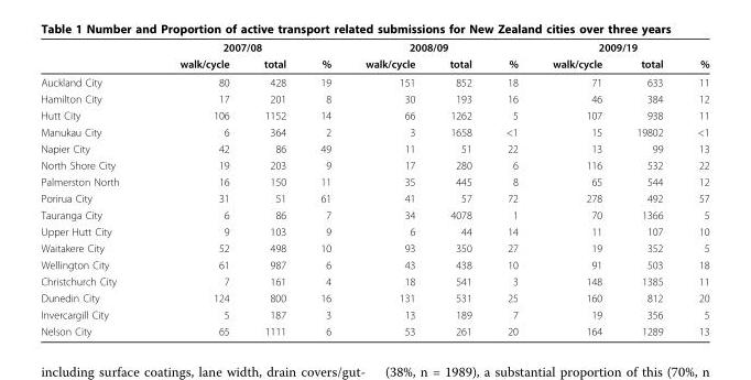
<table><thead><tr><td rowspan="2"></td><td colspan="3">2007/08</td><td colspan="3">2008/09</td><td colspan="3">2009/19</td></tr><tr><td>walk/cycle</td><td>total</td><td>%</td><td>walk/cycle</td><td>total</td><td>%</td><td>walk/cycle</td><td>total</td><td>%</td></tr></thead><tbody><tr><td>Auckland City</td><td>80</td><td>428</td><td>19</td><td>151</td><td>852</td><td>18</td><td>71</td><td>633</td><td>11</td></tr><tr><td>Hamilton City</td><td>17</td><td>201</td><td>8</td><td>30</td><td>193</td><td>16</td><td>46</td><td>384</td><td>12</td></tr><tr><td>Hutt City</td><td>106</td><td>1152</td><td>14</td><td>66</td><td>1262</td><td>5</td><td>107</td><td>938</td><td>11</td></tr><tr><td>Manukau City</td><td>6</td><td>364</td><td>2</td><td>3</td><td>1658</td><td>&lt;1</td><td>15</td><td>19802</td><td>&lt;1</td></tr><tr><td>Napier City</td><td>42</td><td>86</td><td>49</td><td>11</td><td>51</td><td>22</td><td>13</td><td>99</td><td>13</td></tr><tr><td>North Shore City</td><td>19</td><td>203</td><td>9</td><td>17</td><td>280</td><td>6</td><td>116</td><td>532</td><td>22</td></tr><tr><td>Palmerston North</td><td>16</td><td>150</td><td>11</td><td>35</td><td>445</td><td>8</td><td>65</td><td>544</td><td>12</td></tr><tr><td>Porirua City</td><td>31</td><td>51</td><td>61</td><td>41</td><td>57</td><td>72</td><td>278</td><td>492</td><td>57</td></tr><tr><td>Tauranga City</td><td>6</td><td>86</td><td>7</td><td>34</td><td>4078</td><td>1</td><td>70</td><td>1366</td><td>5</td></tr><tr><td>Upper Hutt City</td><td>9</td><td>103</td><td>9</td><td>6</td><td>44</td><td>14</td><td>11</td><td>107</td><td>10</td></tr><tr><td>Waitakere City</td><td>52</td><td>498</td><td>10</td><td>93</td><td>350</td><td>27</td><td>19</td><td>352</td><td>5</td></tr><tr><td>Wellington City</td><td>61</td><td>987</td><td>6</td><td>43</td><td>438</td><td>10</td><td>91</td><td>503</td><td>18</td></tr><tr><td>Christchurch City</td><td>7</td><td>161</td><td>4</td><td>18</td><td>541</td><td>3</td><td>148</td><td>1385</td><td>11</td></tr><tr><td>Dunedin City</td><td>124</td><td>800</td><td>16</td><td>131</td><td>531</td><td>25</td><td>160</td><td>812</td><td>20</td></tr><tr><td>Invercargill City</td><td>5</td><td>187</td><td>3</td><td>13</td><td>189</td><td>7</td><td>19</td><td>356</td><td>5</td></tr><tr><td>Nelson City</td><td>65</td><td>1111</td><td>6</td><td>53</td><td>261</td><td>20</td><td>164</td><td>1289</td><td>13</td></tr></tbody></table>